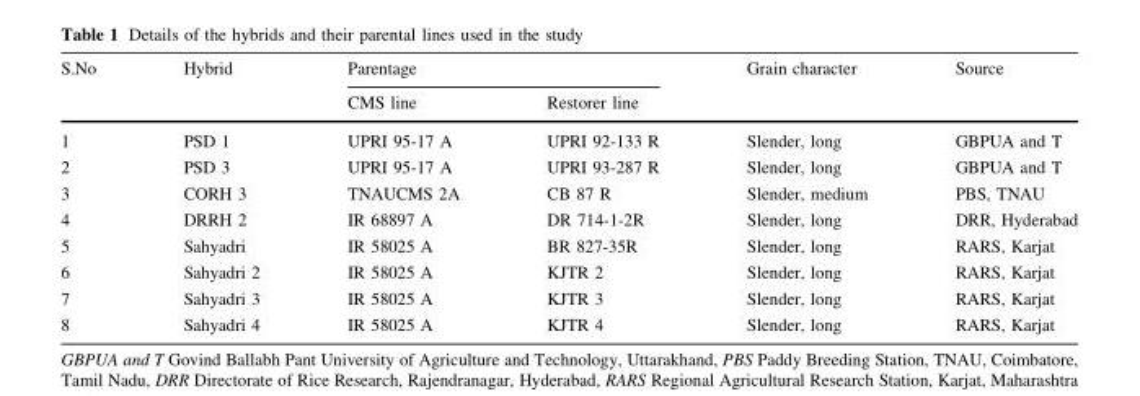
<table><thead><tr><td rowspan="2">S.No</td><td rowspan="2">Hybrid</td><td colspan="2">Parentage</td><td rowspan="2">Grain character</td><td rowspan="2">Source</td></tr><tr><td>CMS line</td><td>Restorer line</td></tr></thead><tbody><tr><td>1</td><td>PSD 1</td><td>UPRI 95-17 A</td><td>UPRI 92-133 R</td><td>Slender, long</td><td>GBPUA and T</td></tr><tr><td>2</td><td>PSD 3</td><td>UPRI 95-17 A</td><td>UPRI 93-287 R</td><td>Slender, long</td><td>GBPUA and T</td></tr><tr><td>3</td><td>CORH 3</td><td>TNAUCMS 2A</td><td>CB 87 R</td><td>Slender, medium</td><td>PBS, TNAU</td></tr><tr><td>4</td><td>DRRH 2</td><td>IR 68897 A</td><td>DR 714-1-2R</td><td>Slender, long</td><td>DRR, Hyderabad</td></tr><tr><td>5</td><td>Sahyadri</td><td>IR 58025 A</td><td>BR 827-35R</td><td>Slender, long</td><td>RARS, Karjat</td></tr><tr><td>6</td><td>Sahyadri 2</td><td>IR 58025 A</td><td>KJTR 2</td><td>Slender, long</td><td>RARS, Karjat</td></tr><tr><td>7</td><td>Sahyadri 3</td><td>IR 58025 A</td><td>KJTR 3</td><td>Slender, long</td><td>RARS, Karjat</td></tr><tr><td>8</td><td>Sahyadri 4</td><td>IR 58025 A</td><td>KJTR 4</td><td>Slender, long</td><td>RARS, Karjat</td></tr></tbody></table>